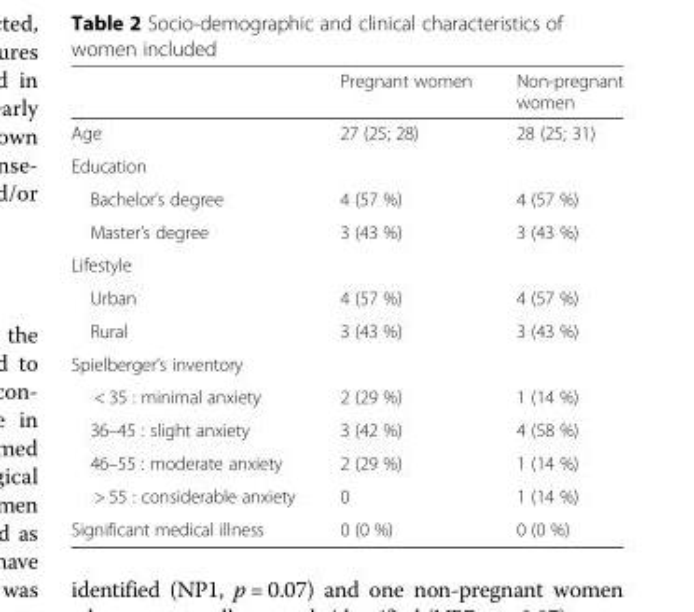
<table><thead><tr><td></td><td>Pregnant women</td><td>Non-pregnant women</td></tr></thead><tbody><tr><td>Age</td><td>27 (25; 28)</td><td>28 (25; 31)</td></tr><tr><td colspan="3">Education</td></tr><tr><td>Bachelor’s degree</td><td>4 (57 %)</td><td>4 (57 %)</td></tr><tr><td>Master’s degree</td><td>3 (43 %)</td><td>3 (43 %)</td></tr><tr><td colspan="3">Lifestyle</td></tr><tr><td>Urban</td><td>4 (57 %)</td><td>4 (57 %)</td></tr><tr><td>Rural</td><td>3 (43 %)</td><td>3 (43 %)</td></tr><tr><td colspan="3">Spielberger’s inventory</td></tr><tr><td>&lt; 35 : minimal anxiety</td><td>2 (29 %)</td><td>1 (14 %)</td></tr><tr><td>36–45 : slight anxiety</td><td>3 (42 %)</td><td>4 (58 %)</td></tr><tr><td>46–55 : moderate anxiety</td><td>2 (29 %)</td><td>1 (14 %)</td></tr><tr><td>&gt; 55 : considerable anxiety</td><td>0</td><td>1 (14 %)</td></tr><tr><td>Significant medical illness</td><td>0 (0 %)</td><td>0 (0 %)</td></tr></tbody></table>